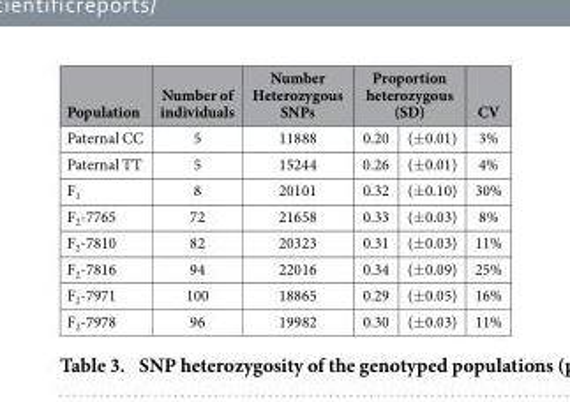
<table><thead><tr><td rowspan="2">Population Paternal CC</td><td rowspan="2">Number of individuals 5</td><td rowspan="2">Number Heterozygous SNPs 11888</td><td colspan="2">Proportion heterozygous (SD)</td><td rowspan="2">CV 3%</td></tr><tr><td>0.20</td><td>(± 0.01)</td></tr></thead><tbody><tr><td>Paternal TT</td><td>5</td><td>15244</td><td>0.26</td><td>(± 0.01)</td><td>4%</td></tr><tr><td>F<sub>1</sub></td><td>8</td><td>20101</td><td>0.32</td><td>(± 0.10)</td><td>30%</td></tr><tr><td>F<sub>2</sub>-7765</td><td>72</td><td>21658</td><td>0.33</td><td>(± 0.03)</td><td>8%</td></tr><tr><td>F<sub>2</sub>-7810</td><td>82</td><td>20323</td><td>0.31</td><td>(± 0.03)</td><td>11%</td></tr><tr><td>F<sub>2</sub>-7816</td><td>94</td><td>22016</td><td>0.34</td><td>(± 0.09)</td><td>25%</td></tr><tr><td>F<sub>2</sub>-7971</td><td>100</td><td>18865</td><td>0.29</td><td>(± 0.05)</td><td>16%</td></tr><tr><td>F<sub>2</sub>-7978</td><td>96</td><td>19982</td><td>0.30</td><td>(± 0.03)</td><td>11%</td></tr></tbody></table>